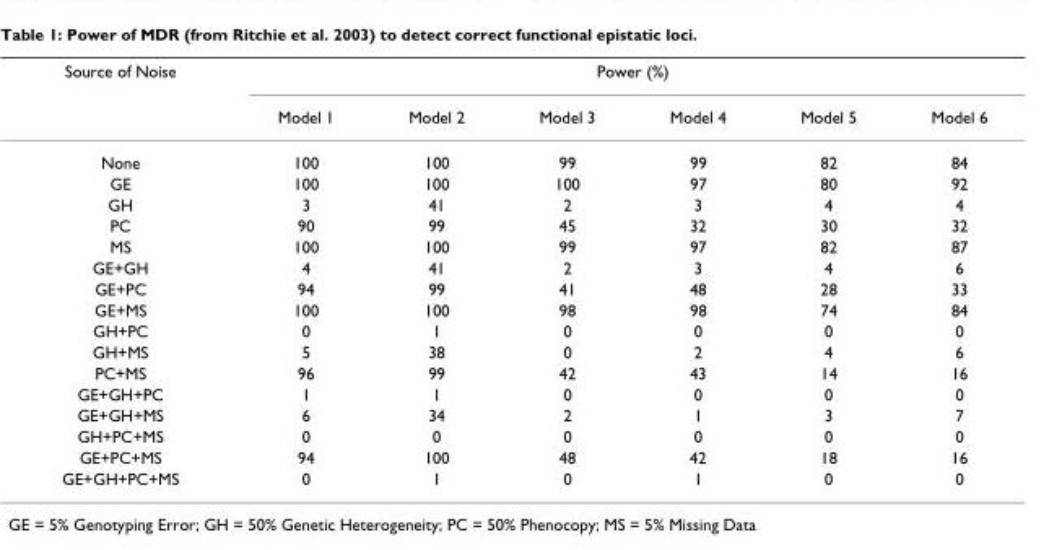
<table><thead><tr><td rowspan="2">Source of Noise</td><td colspan="6">Power (%)</td></tr><tr><td>Model 1</td><td>Model 2</td><td>Model 3</td><td>Model 4</td><td>Model 5</td><td>Model 6</td></tr></thead><tbody><tr><td>None</td><td>100</td><td>100</td><td>99</td><td>99</td><td>82</td><td>84</td></tr><tr><td>GE</td><td>100</td><td>100</td><td>100</td><td>97</td><td>80</td><td>92</td></tr><tr><td>GH</td><td>3</td><td>41</td><td>2</td><td>3</td><td>4</td><td>4</td></tr><tr><td>PC</td><td>90</td><td>99</td><td>45</td><td>32</td><td>30</td><td>32</td></tr><tr><td>MS</td><td>100</td><td>100</td><td>99</td><td>97</td><td>82</td><td>87</td></tr><tr><td>GE+GH</td><td>4</td><td>41</td><td>2</td><td>3</td><td>4</td><td>6</td></tr><tr><td>GE+PC</td><td>94</td><td>99</td><td>41</td><td>48</td><td>28</td><td>33</td></tr><tr><td>GE+MS</td><td>100</td><td>100</td><td>98</td><td>98</td><td>74</td><td>84</td></tr><tr><td>GH+PC</td><td>0</td><td>1</td><td>0</td><td>0</td><td>0</td><td>0</td></tr><tr><td>GH+MS</td><td>5</td><td>38</td><td>0</td><td>2</td><td>4</td><td>6</td></tr><tr><td>PC+MS</td><td>96</td><td>99</td><td>42</td><td>43</td><td>14</td><td>16</td></tr><tr><td>GE+GH+PC</td><td>1</td><td>1</td><td>0</td><td>0</td><td>0</td><td>0</td></tr><tr><td>GE+GH+MS</td><td>6</td><td>34</td><td>2</td><td>1</td><td>3</td><td>7</td></tr><tr><td>GH+PC+MS</td><td>0</td><td>0</td><td>0</td><td>0</td><td>0</td><td>0</td></tr><tr><td>GE+PC+MS</td><td>94</td><td>100</td><td>48</td><td>42</td><td>18</td><td>16</td></tr><tr><td>GE+GH+PC+MS</td><td>0</td><td>1</td><td>0</td><td>1</td><td>0</td><td>0</td></tr></tbody></table>